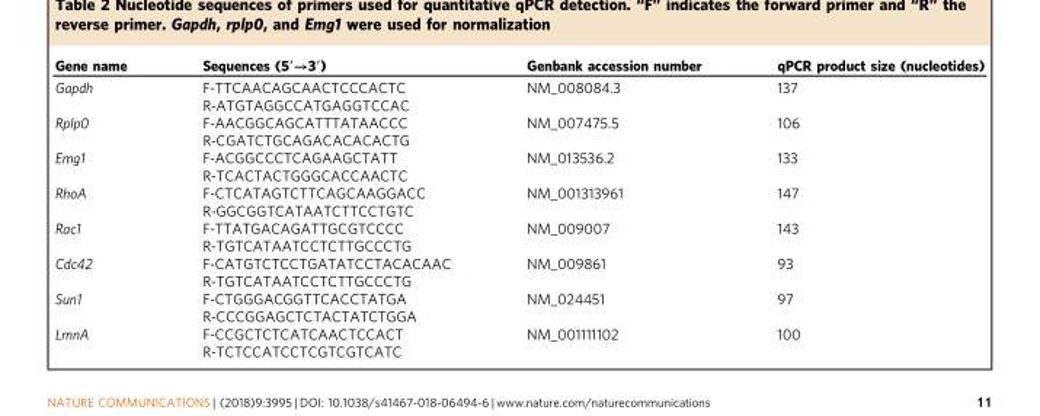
<table><thead><tr><td>Gene name</td><td>Sequences (5′→3′)</td><td>Genbank accession number</td><td>qPCR product size (nucleotides)</td></tr></thead><tbody><tr><td>Gapdh</td><td>F-TTCAACAGCAACTCCCACTC R-ATGTAGGCCATGAGGTCCAC</td><td>NM_008084.3</td><td>137</td></tr><tr><td>Rplp0</td><td>F-AACGGCAGCATTTATAACCC R-CGATCTGCAGACACACACTG</td><td>NM_007475.5</td><td>106</td></tr><tr><td>Emg1</td><td>F-ACGGCCCTCAGAAGCTATT R-TCACTACTGGGCACCAACTC</td><td>NM_013536.2</td><td>133</td></tr><tr><td>RhoA</td><td>F-CTCATAGTCTTCAGCAAGGACC R-GGCGGTCATAATCTTCCTGTC</td><td>NM_001313961</td><td>147</td></tr><tr><td>Rac1</td><td>F-TTATGACAGATTGCGTCCCC R-TGTCATAATCCTCTTGCCCTG</td><td>NM_009007</td><td>143</td></tr><tr><td>Cdc42</td><td>F-CATGTCTCCTGATATCCTACACAAC R-TGTCATAATCCTCTTGCCCTG</td><td>NM_009861</td><td>93</td></tr><tr><td>Sun1</td><td>F-CTGGGACGGTTCACCTATGA R-CCCGGAGCTCTACTATCTGGA</td><td>NM_024451</td><td>97</td></tr><tr><td>LmnA</td><td>F-CCGCTCTCATCAACTCCACT R-TCTCCATCCTCGTCGTCATC</td><td>NM_001111102</td><td>100</td></tr></tbody></table>